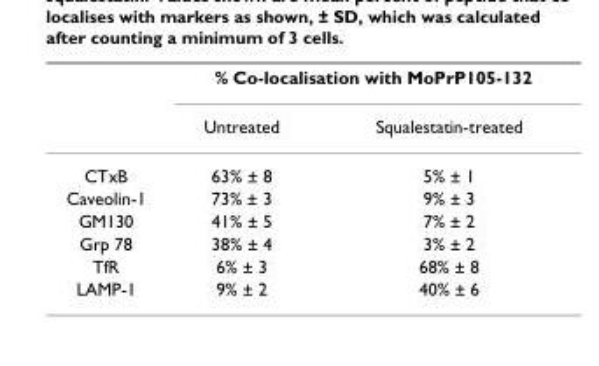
<table><thead><tr><td rowspan="2"></td><td colspan="2">% Co-localisation with MoPrP105-132</td></tr><tr><td>Untreated</td><td>Squalestatin-treated</td></tr></thead><tbody><tr><td>CTxB</td><td>63% ± 8</td><td>5% ± 1</td></tr><tr><td>Caveolin-1</td><td>73% ± 3</td><td>9% ± 3</td></tr><tr><td>GM130</td><td>41% ± 5</td><td>7% ± 2</td></tr><tr><td>Grp 78</td><td>38% ± 4</td><td>3% ± 2</td></tr><tr><td>TfR</td><td>6% ± 3</td><td>68% ± 8</td></tr><tr><td>LAMP-1</td><td>9% ± 2</td><td>40% ± 6</td></tr></tbody></table>